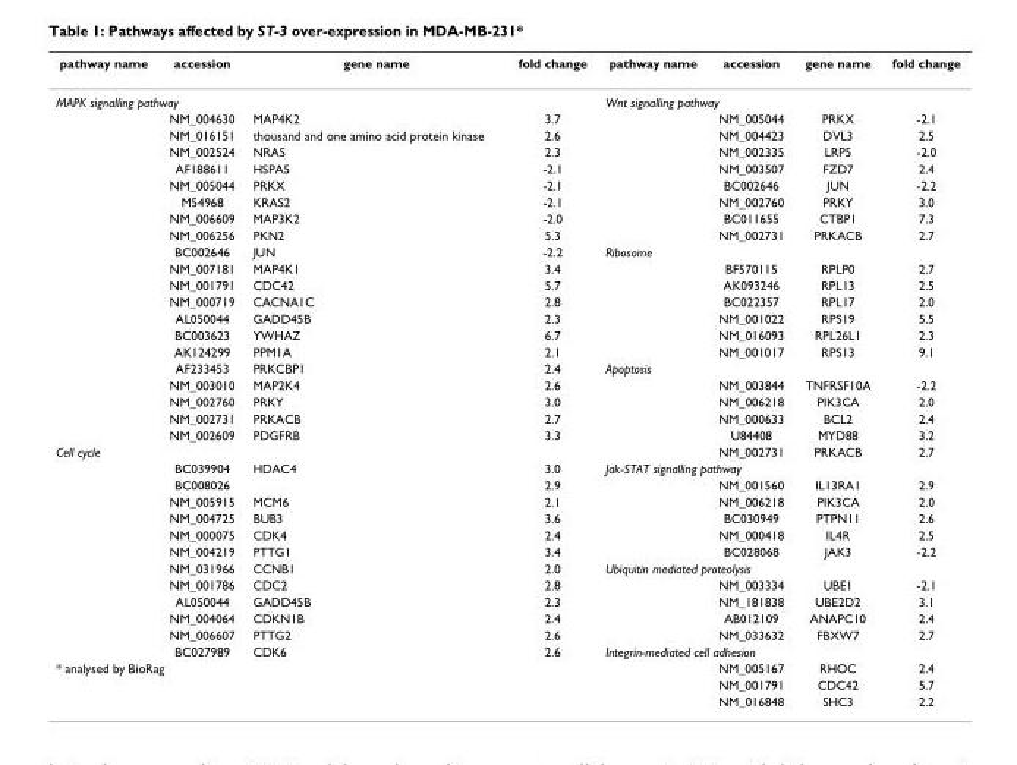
<table><thead><tr><td>pathway name</td><td>accession</td><td>gene name</td><td>fold change</td><td>pathway name</td><td>accession</td><td>gene name</td><td>fold change</td></tr></thead><tbody><tr><td colspan="2">MAPK signalling pathway</td><td></td><td></td><td colspan="2">Wnt signalling pathway</td><td></td><td></td></tr><tr><td></td><td>NM_004630</td><td>MAP4K2</td><td>3.7</td><td></td><td>NM_005044</td><td>PRKX</td><td>-2.1</td></tr><tr><td></td><td>NM_016151</td><td>thousand and one amino acid protein kinase</td><td>2.6</td><td></td><td>NM_004423</td><td>DVL3</td><td>2.5</td></tr><tr><td></td><td>NM_002524</td><td>NRAS</td><td>2.3</td><td></td><td>NM_002335</td><td>LRP5</td><td>-2.0</td></tr><tr><td></td><td>AF188611</td><td>HSPA5</td><td>-2.1</td><td></td><td>NM_003507</td><td>FZD7</td><td>2.4</td></tr><tr><td></td><td>NM_005044</td><td>PRKX</td><td>-2.1</td><td></td><td>BC002646</td><td>JUN</td><td>-2.2</td></tr><tr><td></td><td>M54968</td><td>KRAS2</td><td>-2.1</td><td></td><td>NM_002760</td><td>PRKY</td><td>3.0</td></tr><tr><td></td><td>NM_006609</td><td>MAP3K2</td><td>-2.0</td><td></td><td>BC011655</td><td>CTBP1</td><td>7.3</td></tr><tr><td></td><td>NM_006256</td><td>PKN2</td><td>5.3</td><td></td><td>NM_002731</td><td>PRKACB</td><td>2.7</td></tr><tr><td></td><td>BC002646</td><td>JUN</td><td>-2.2</td><td>Ribosome</td><td></td><td></td><td></td></tr><tr><td></td><td>NM_007181</td><td>MAP4K1</td><td>3.4</td><td></td><td>BF570115</td><td>RPLP0</td><td>2.7</td></tr><tr><td></td><td>NM_001791</td><td>CDC42</td><td>5.7</td><td></td><td>AK093246</td><td>RPL13</td><td>2.5</td></tr><tr><td></td><td>NM_000719</td><td>CACNA1C</td><td>2.8</td><td></td><td>BC022357</td><td>RPL17</td><td>2.0</td></tr><tr><td></td><td>AL050044</td><td>GADD45B</td><td>2.3</td><td></td><td>NM_001022</td><td>RPS19</td><td>5.5</td></tr><tr><td></td><td>BC003623</td><td>YWHAZ</td><td>6.7</td><td></td><td>NM_016093</td><td>RPL26L1</td><td>2.3</td></tr><tr><td></td><td>AK124299</td><td>PPM1A</td><td>2.1</td><td></td><td>NM_001017</td><td>RPS13</td><td>9.1</td></tr><tr><td></td><td>AF233453</td><td>PRKCBP1</td><td>2.4</td><td>Apoptosis</td><td></td><td></td><td></td></tr><tr><td></td><td>NM_003010</td><td>MAP2K4</td><td>2.6</td><td></td><td>NM_003844</td><td>TNFRSF10A</td><td>-2.2</td></tr><tr><td></td><td>NM_002760</td><td>PRKY</td><td>3.0</td><td></td><td>NM_006218</td><td>PIK3CA</td><td>2.0</td></tr><tr><td></td><td>NM_002731</td><td>PRKACB</td><td>2.7</td><td></td><td>NM_000633</td><td>BCL2</td><td>2.4</td></tr><tr><td></td><td>NM_002609</td><td>PDGFRB</td><td>3.3</td><td></td><td>U84408</td><td>MYD88</td><td>3.2</td></tr><tr><td rowspan="13">Cell cycle</td><td></td><td></td><td></td><td></td><td>NM_002731</td><td>PRKACB</td><td>2.7</td></tr><tr><td>BC039904</td><td>HDAC4</td><td>3.0</td><td colspan="2">Jak-STAT signalling pathway</td><td></td><td></td></tr><tr><td>BC008026</td><td></td><td>2.9</td><td></td><td>NM_001560</td><td>IL13RA1</td><td>2.9</td></tr><tr><td>NM_005915</td><td>MCM6</td><td>2.1</td><td></td><td>NM_006218</td><td>PIK3CA</td><td>2.0</td></tr><tr><td>NM_004725</td><td>BUB3</td><td>3.6</td><td></td><td>BC030949</td><td>PTPN11</td><td>2.6</td></tr><tr><td>NM_000075</td><td>CDK4</td><td>2.4</td><td></td><td>NM_000418</td><td>IL4R</td><td>2.5</td></tr><tr><td>NM_004219</td><td>PTTG1</td><td>3.4</td><td></td><td>BC028068</td><td>JAK3</td><td>-2.2</td></tr><tr><td>NM_031966</td><td>CCNB1</td><td>2.0</td><td colspan="2">Ubiquitin mediated proteolysis</td><td></td><td></td></tr><tr><td>NM_001786</td><td>CDC2</td><td>2.8</td><td></td><td>NM_003334</td><td>UBE1</td><td>-2.1</td></tr><tr><td>AL050044</td><td>GADD45B</td><td>2.3</td><td></td><td>NM_181838</td><td>UBE2D2</td><td>3.1</td></tr><tr><td>NM_004064</td><td>CDKN1B</td><td>2.4</td><td></td><td>AB012109</td><td>ANAPC10</td><td>2.4</td></tr><tr><td>NM_006607</td><td>PTTG2</td><td>2.6</td><td></td><td>NM_033632</td><td>FBXW7</td><td>2.7</td></tr><tr><td>BC027989</td><td>CDK6</td><td>2.6</td><td colspan="2">Integrin-mediated cell adhesion</td><td></td><td></td></tr><tr><td colspan="2">* analysed by BioRag</td><td></td><td></td><td></td><td>NM_005167</td><td>RHOC</td><td>2.4</td></tr><tr><td></td><td></td><td></td><td></td><td></td><td>NM_001791</td><td>CDC42</td><td>5.7</td></tr><tr><td></td><td></td><td></td><td></td><td></td><td>NM_016848</td><td>SHC3</td><td>2.2</td></tr></tbody></table>